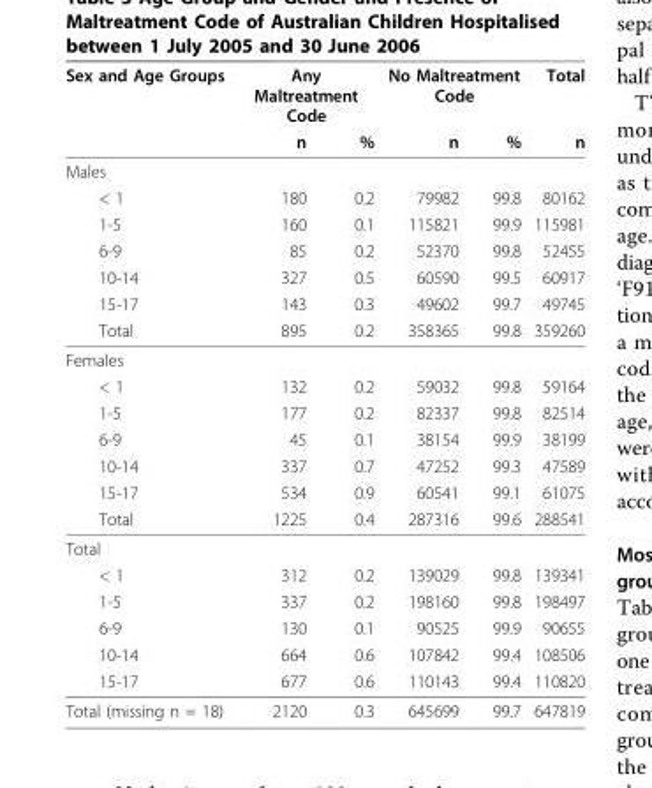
<table><thead><tr><td rowspan="2">Sex and Age Groups</td><td colspan="2">Any Maltreatment Code</td><td colspan="2">No Maltreatment Code</td><td rowspan="2">Total n</td></tr><tr><td>n</td><td>%</td><td>n</td><td>%</td></tr></thead><tbody><tr><td colspan="6">Males</td></tr><tr><td>&lt; 1</td><td>180</td><td>0.2</td><td>79982</td><td>99.8</td><td>80162</td></tr><tr><td>1-5</td><td>160</td><td>0.1</td><td>115821</td><td>99.9</td><td>115981</td></tr><tr><td>6-9</td><td>85</td><td>0.2</td><td>52370</td><td>99.8</td><td>52455</td></tr><tr><td>10-14</td><td>327</td><td>0.5</td><td>60590</td><td>99.5</td><td>60917</td></tr><tr><td>15-17</td><td>143</td><td>0.3</td><td>49602</td><td>99.7</td><td>49745</td></tr><tr><td>Total</td><td>895</td><td>0.2</td><td>358365</td><td>99.8</td><td>359260</td></tr><tr><td colspan="6">Females</td></tr><tr><td>&lt; 1</td><td>132</td><td>0.2</td><td>59032</td><td>99.8</td><td>59164</td></tr><tr><td>1-5</td><td>177</td><td>0.2</td><td>82337</td><td>99.8</td><td>82514</td></tr><tr><td>6-9</td><td>45</td><td>0.1</td><td>38154</td><td>99.9</td><td>38199</td></tr><tr><td>10-14</td><td>337</td><td>0.7</td><td>47252</td><td>99.3</td><td>47589</td></tr><tr><td>15-17</td><td>534</td><td>0.9</td><td>60541</td><td>99.1</td><td>61075</td></tr><tr><td>Total</td><td>1225</td><td>0.4</td><td>287316</td><td>99.6</td><td>288541</td></tr><tr><td colspan="6">Total</td></tr><tr><td>&lt; 1</td><td>312</td><td>0.2</td><td>139029</td><td>99.8</td><td>139341</td></tr><tr><td>1-5</td><td>337</td><td>0.2</td><td>198160</td><td>99.8</td><td>198497</td></tr><tr><td>6-9</td><td>130</td><td>0.1</td><td>90525</td><td>99.9</td><td>90655</td></tr><tr><td>10-14</td><td>664</td><td>0.6</td><td>107842</td><td>99.4</td><td>108506</td></tr><tr><td>15-17</td><td>677</td><td>0.6</td><td>110143</td><td>99.4</td><td>110820</td></tr><tr><td>Total (missing n = 18)</td><td>2120</td><td>0.3</td><td>645699</td><td>99.7</td><td>647819</td></tr></tbody></table>